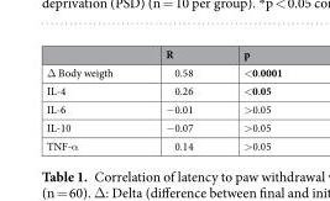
<table><thead><tr><td></td><td>R</td><td>p</td></tr></thead><tbody><tr><td>Δ Body weigth</td><td>0.58</td><td>&lt;0.0001</td></tr><tr><td>IL-4</td><td>0.26</td><td>&lt;0.05</td></tr><tr><td>IL-6</td><td>−0.01</td><td>&gt;0.05</td></tr><tr><td>IL-10</td><td>−0.07</td><td>&gt;0.05</td></tr><tr><td>TNF-α</td><td>0.14</td><td>&gt;0.05</td></tr></tbody></table>